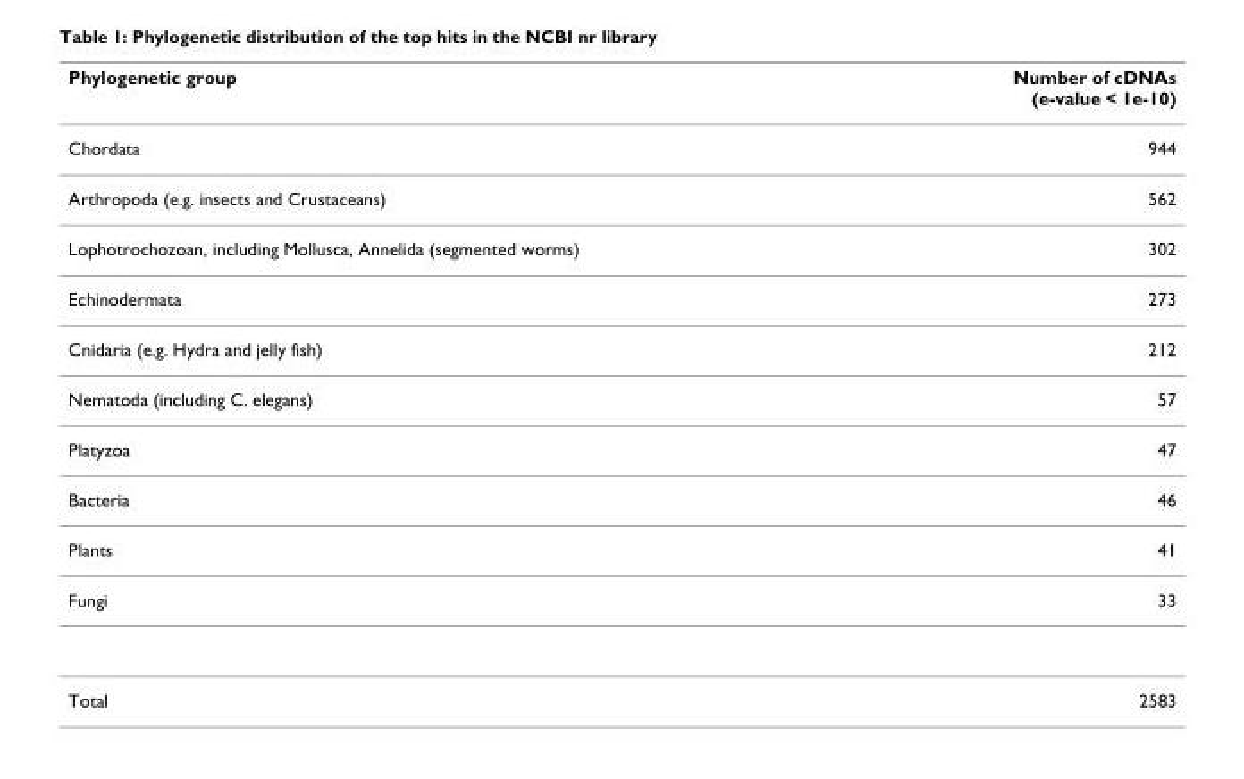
<table><thead><tr><td>Phylogenetic group</td><td>Number of cDNAs (e-value &lt; 1e-10)</td></tr></thead><tbody><tr><td>Chordata</td><td>944</td></tr><tr><td>Arthropoda (e.g. insects and Crustaceans)</td><td>562</td></tr><tr><td>Lophotrochozoan, including Mollusca, Annelida (segmented worms)</td><td>302</td></tr><tr><td>Echinodermata</td><td>273</td></tr><tr><td>Cnidaria (e.g. Hydra and jelly fish)</td><td>212</td></tr><tr><td>Nematoda (including C. elegans)</td><td>57</td></tr><tr><td>Platyzoa</td><td>47</td></tr><tr><td>Bacteria</td><td>46</td></tr><tr><td>Plants</td><td>41</td></tr><tr><td>Fungi</td><td>33</td></tr><tr><td>Total</td><td>2583</td></tr></tbody></table>